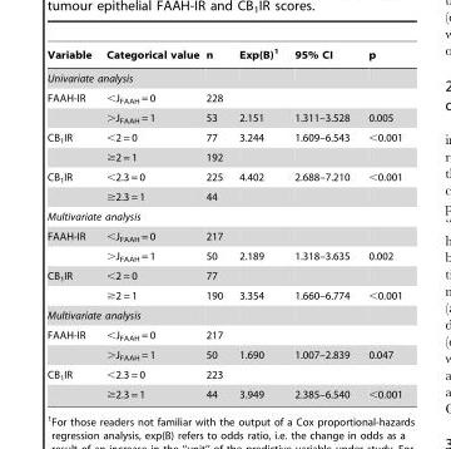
<table><thead><tr><td>Variable</td><td>Categorical value</td><td>n</td><td>Exp(B)<sup>1</sup></td><td>95% CI</td><td>p</td></tr></thead><tbody><tr><td colspan="6">Univariate analysis</td></tr><tr><td rowspan="2">FAAH-IR</td><td>&lt;J<sub>FAAH</sub> = 0</td><td>228</td><td></td><td></td><td></td></tr><tr><td>&gt;J<sub>FAAH</sub> = 1</td><td>53</td><td>2.151</td><td>1.311–3.528</td><td>0.005</td></tr><tr><td rowspan="2">CB<sub>1</sub>IR</td><td>&lt;2 = 0</td><td>77</td><td>3.244</td><td>1.609–6.543</td><td>&lt;0.001</td></tr><tr><td>≥2 = 1</td><td>192</td><td></td><td></td><td></td></tr><tr><td rowspan="2">CB<sub>1</sub>IR</td><td>&lt;2.3 = 0</td><td>225</td><td>4.402</td><td>2.688–7.210</td><td>&lt;0.001</td></tr><tr><td>≥2.3 = 1</td><td>44</td><td></td><td></td><td></td></tr><tr><td colspan="6">Multivariate analysis</td></tr><tr><td rowspan="2">FAAH-IR</td><td>&lt;J<sub>FAAH</sub> = 0</td><td>217</td><td></td><td></td><td></td></tr><tr><td>&gt;J<sub>FAAH</sub> = 1</td><td>50</td><td>2.189</td><td>1.318–3.635</td><td>0.002</td></tr><tr><td rowspan="2">CB<sub>1</sub>IR</td><td>&lt;2 = 0</td><td>77</td><td></td><td></td><td></td></tr><tr><td>≥2 = 1</td><td>190</td><td>3.354</td><td>1.660–6.774</td><td>&lt;0.001</td></tr><tr><td colspan="6">Multivariate analysis</td></tr><tr><td rowspan="2">FAAH-IR</td><td>&lt;J<sub>FAAH</sub> = 0</td><td>217</td><td></td><td></td><td></td></tr><tr><td>&gt;J<sub>FAAH</sub> = 1</td><td>50</td><td>1.690</td><td>1.007–2.839</td><td>0.047</td></tr><tr><td rowspan="2">CB<sub>1</sub>IR</td><td>&lt;2.3 = 0</td><td>223</td><td></td><td></td><td></td></tr><tr><td>≥2.3 = 1</td><td>44</td><td>3.949</td><td>2.385–6.540</td><td>&lt;0.001</td></tr></tbody></table>